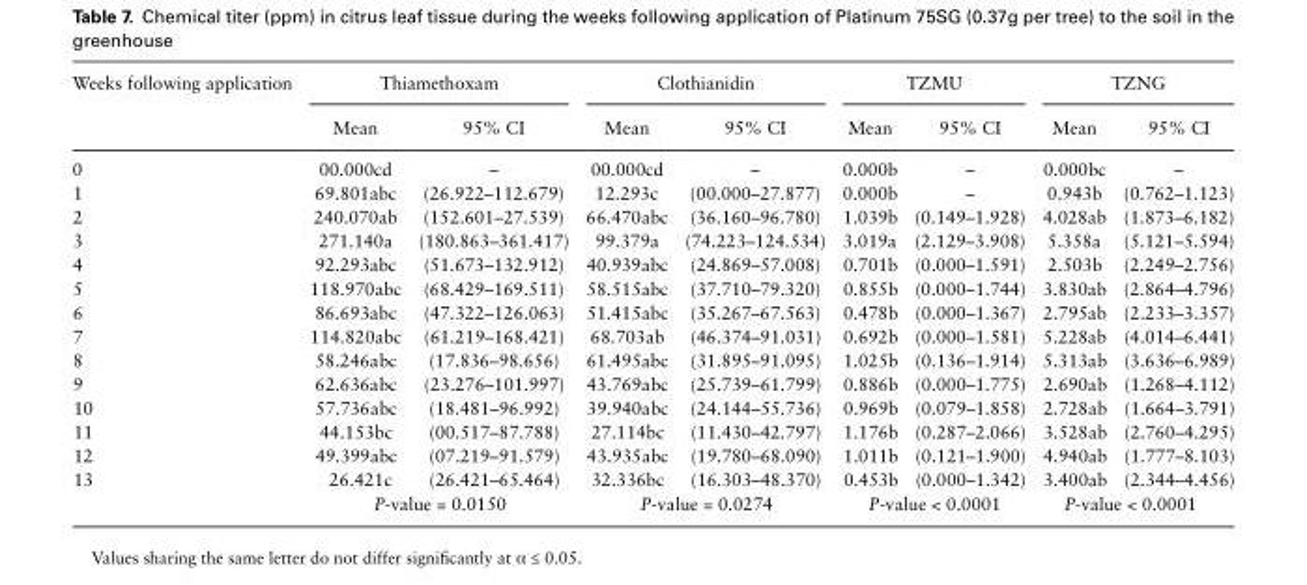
<table><thead><tr><td rowspan="2">Weeks following application</td><td colspan="2">Thiamethoxam</td><td colspan="2">Clothianidin</td><td colspan="2">TZMU</td><td colspan="2">TZNG</td></tr><tr><td>Mean</td><td>95% CI</td><td>Mean</td><td>95% CI</td><td>Mean</td><td>95% CI</td><td>Mean</td><td>95% CI</td></tr></thead><tbody><tr><td>0</td><td>00.000cd</td><td>–</td><td>00.000cd</td><td>–</td><td>0.000b</td><td>–</td><td>0.000bc</td><td>–</td></tr><tr><td>1</td><td>69.801abc</td><td>(26.922–112.679)</td><td>12.293c</td><td>(00.000–27.877)</td><td>0.000b</td><td>–</td><td>0.943b</td><td>(0.762–1.123)</td></tr><tr><td>2</td><td>240.070ab</td><td>(152.601–27.539)</td><td>66.470abc</td><td>(36.160–96.780)</td><td>1.039b</td><td>(0.149–1.928)</td><td>4.028ab</td><td>(1.873–6.182)</td></tr><tr><td>3</td><td>271.140a</td><td>(180.863–361.417)</td><td>99.379a</td><td>(74.223–124.534)</td><td>3.019a</td><td>(2.129–3.908)</td><td>5.358a</td><td>(5.121–5.594)</td></tr><tr><td>4</td><td>92.293abc</td><td>(51.673–132.912)</td><td>40.939abc</td><td>(24.869–57.008)</td><td>0.701b</td><td>(0.000–1.591)</td><td>2.503b</td><td>(2.249–2.756)</td></tr><tr><td>5</td><td>118.970abc</td><td>(68.429–169.511)</td><td>58.515abc</td><td>(37.710–79.320)</td><td>0.855b</td><td>(0.000–1.744)</td><td>3.830ab</td><td>(2.864–4.796)</td></tr><tr><td>6</td><td>86.693abc</td><td>(47.322–126.063)</td><td>51.415abc</td><td>(35.267–67.563)</td><td>0.478b</td><td>(0.000–1.367)</td><td>2.795ab</td><td>(2.233–3.357)</td></tr><tr><td>7</td><td>114.820abc</td><td>(61.219–168.421)</td><td>68.703ab</td><td>(46.374–91.031)</td><td>0.692b</td><td>(0.000–1.581)</td><td>5.228ab</td><td>(4.014–6.441)</td></tr><tr><td>8</td><td>58.246abc</td><td>(17.836–98.656)</td><td>61.495abc</td><td>(31.895–91.095)</td><td>1.025b</td><td>(0.136–1.914)</td><td>5.313ab</td><td>(3.636–6.989)</td></tr><tr><td>9</td><td>62.636abc</td><td>(23.276–101.997)</td><td>43.769abc</td><td>(25.739–61.799)</td><td>0.886b</td><td>(0.000–1.775)</td><td>2.690ab</td><td>(1.268–4.112)</td></tr><tr><td>10</td><td>57.736abc</td><td>(18.481–96.992)</td><td>39.940abc</td><td>(24.144–55.736)</td><td>0.969b</td><td>(0.079–1.858)</td><td>2.728ab</td><td>(1.664–3.791)</td></tr><tr><td>11</td><td>44.153bc</td><td>(00.517–87.788)</td><td>27.114bc</td><td>(11.430–42.797)</td><td>1.176b</td><td>(0.287–2.066)</td><td>3.528ab</td><td>(2.760–4.295)</td></tr><tr><td>12</td><td>49.399abc</td><td>(07.219–91.579)</td><td>43.935abc</td><td>(19.780–68.090)</td><td>1.011b</td><td>(0.121–1.900)</td><td>4.940ab</td><td>(1.777–8.103)</td></tr><tr><td rowspan="2">13</td><td>26.421c</td><td>(26.421–65.464)</td><td>32.336bc</td><td>(16.303–48.370)</td><td>0.453b</td><td>(0.000–1.342)</td><td>3.400ab</td><td>(2.344–4.456)</td></tr><tr><td colspan="2">P-value = 0.0150</td><td colspan="2">P-value = 0.0274</td><td colspan="2">P-value &lt; 0.0001</td><td colspan="2">P-value &lt; 0.0001</td></tr></tbody></table>